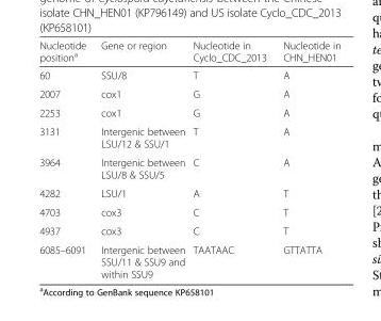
<table><thead><tr><td>Nucleotide position<sup>a</sup></td><td>Gene or region</td><td>Nucleotide in Cyclo_CDC_2013</td><td>Nucleotide in CHN_HEN01</td></tr></thead><tbody><tr><td>60</td><td>SSU/8</td><td>T</td><td>A</td></tr><tr><td>2007</td><td>cox1</td><td>G</td><td>A</td></tr><tr><td>2253</td><td>cox1</td><td>G</td><td>A</td></tr><tr><td>3131</td><td>Intergenic between LSU/12 &amp; SSU/1</td><td>T</td><td>A</td></tr><tr><td>3964</td><td>Intergenic between LSU/8 &amp; SSU/5</td><td>C</td><td>A</td></tr><tr><td>4282</td><td>LSU/1</td><td>A</td><td>T</td></tr><tr><td>4703</td><td>cox3</td><td>C</td><td>T</td></tr><tr><td>4937</td><td>cox3</td><td>C</td><td>T</td></tr><tr><td>6085–6091</td><td>Intergenic between SSU/11 &amp; SSU9 and within SSU9</td><td>TAATAAC</td><td>GTTATTA</td></tr></tbody></table>